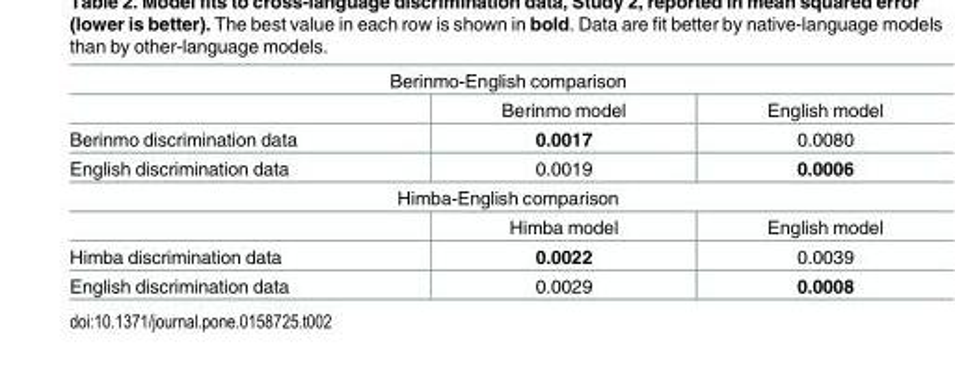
<table><tbody><tr><td colspan="3">Berinmo-English comparison</td></tr><tr><td></td><td>Berinmo model</td><td>English model</td></tr><tr><td>Berinmo discrimination data</td><td>0.0017</td><td>0.0080</td></tr><tr><td>English discrimination data</td><td>0.0019</td><td>0.0006</td></tr><tr><td colspan="3">Himba-English comparison</td></tr><tr><td></td><td>Himba model</td><td>English model</td></tr><tr><td>Himba discrimination data</td><td>0.0022</td><td>0.0039</td></tr><tr><td>English discrimination data</td><td>0.0029</td><td>0.0008</td></tr></tbody></table>